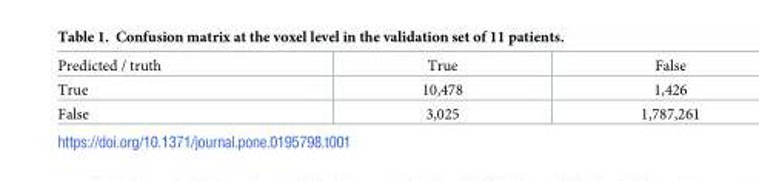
<table><tbody><tr><td>Predicted / truth</td><td>True</td><td>False</td></tr><tr><td>True</td><td>10,478</td><td>1,426</td></tr><tr><td>False</td><td>3,025</td><td>1,787,261</td></tr></tbody></table>